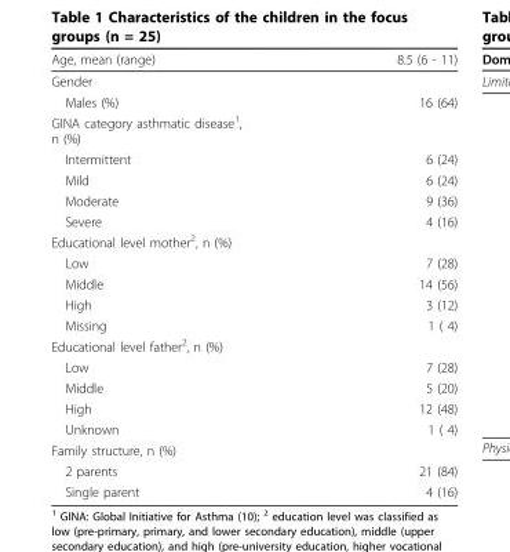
<table><tbody><tr><td>Age, mean (range)</td><td>8.5 (6 - 11)</td></tr><tr><td colspan="2">Gender</td></tr><tr><td>Males (%)</td><td>16 (64)</td></tr><tr><td colspan="2">GINA category asthmatic disease<sup>1</sup>, n (%)</td></tr><tr><td>Intermittent</td><td>6 (24)</td></tr><tr><td>Mild</td><td>6 (24)</td></tr><tr><td>Moderate</td><td>9 (36)</td></tr><tr><td>Severe</td><td>4 (16)</td></tr><tr><td colspan="2">Educational level mother<sup>2</sup>, n (%)</td></tr><tr><td>Low</td><td>7 (28)</td></tr><tr><td>Middle</td><td>14 (56)</td></tr><tr><td>High</td><td>3 (12)</td></tr><tr><td>Missing</td><td>1 ( 4)</td></tr><tr><td colspan="2">Educational level father<sup>2</sup>, n (%)</td></tr><tr><td>Low</td><td>7 (28)</td></tr><tr><td>Middle</td><td>5 (20)</td></tr><tr><td>High</td><td>12 (48)</td></tr><tr><td>Unknown</td><td>1 ( 4)</td></tr><tr><td colspan="2">Family structure, n (%)</td></tr><tr><td>2 parents</td><td>21 (84)</td></tr><tr><td>Single parent</td><td>4 (16)</td></tr></tbody></table>